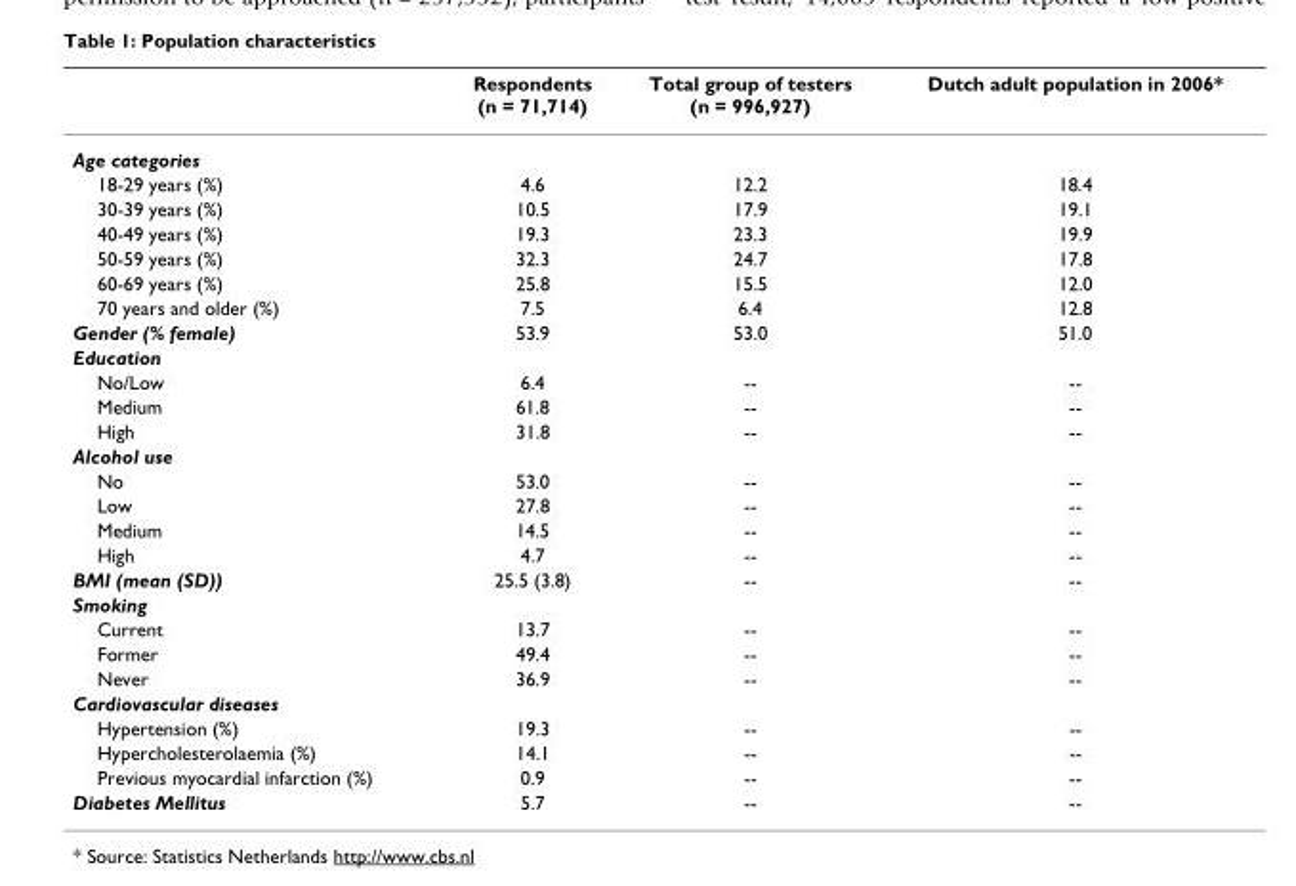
<table><thead><tr><td></td><td>Respondents (n = 71,714)</td><td>Total group of testers (n = 996,927)</td><td>Dutch adult population in 2006*</td></tr></thead><tbody><tr><td colspan="4">Age categories</td></tr><tr><td>18-29 years (%)</td><td>4.6</td><td>12.2</td><td>18.4</td></tr><tr><td>30-39 years (%)</td><td>10.5</td><td>17.9</td><td>19.1</td></tr><tr><td>40-49 years (%)</td><td>19.3</td><td>23.3</td><td>19.9</td></tr><tr><td>50-59 years (%)</td><td>32.3</td><td>24.7</td><td>17.8</td></tr><tr><td>60-69 years (%)</td><td>25.8</td><td>15.5</td><td>12.0</td></tr><tr><td>70 years and older (%)</td><td>7.5</td><td>6.4</td><td>12.8</td></tr><tr><td>Gender (% female)</td><td>53.9</td><td>53.0</td><td>51.0</td></tr><tr><td colspan="4">Education</td></tr><tr><td>No/Low</td><td>6.4</td><td>--</td><td>--</td></tr><tr><td>Medium</td><td>61.8</td><td>--</td><td>--</td></tr><tr><td>High</td><td>31.8</td><td>--</td><td>--</td></tr><tr><td colspan="4">Alcohol use</td></tr><tr><td>No</td><td>53.0</td><td>--</td><td>--</td></tr><tr><td>Low</td><td>27.8</td><td>--</td><td>--</td></tr><tr><td>Medium</td><td>14.5</td><td>--</td><td>--</td></tr><tr><td>High</td><td>4.7</td><td>--</td><td>--</td></tr><tr><td>BMI (mean (SD))</td><td>25.5 (3.8)</td><td>--</td><td>--</td></tr><tr><td colspan="4">Smoking</td></tr><tr><td>Current</td><td>13.7</td><td>--</td><td>--</td></tr><tr><td>Former</td><td>49.4</td><td>--</td><td>--</td></tr><tr><td>Never</td><td>36.9</td><td>--</td><td>--</td></tr><tr><td colspan="4">Cardiovascular diseases</td></tr><tr><td>Hypertension (%)</td><td>19.3</td><td>--</td><td>--</td></tr><tr><td>Hypercholesterolaemia (%)</td><td>14.1</td><td>--</td><td>--</td></tr><tr><td>Previous myocardial infarction (%)</td><td>0.9</td><td>--</td><td>--</td></tr><tr><td>Diabetes Mellitus</td><td>5.7</td><td>--</td><td>--</td></tr></tbody></table>